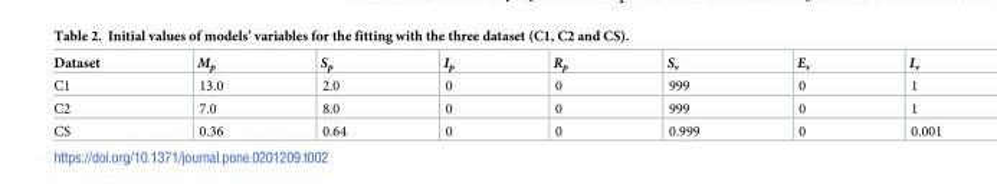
<table><thead><tr><td>Dataset</td><td>M<sub>p</sub></td><td>S<sub>p</sub></td><td>I<sub>p</sub></td><td>R<sub>p</sub></td><td>S<sub>v</sub></td><td>E<sub>v</sub></td><td>I<sub>v</sub></td></tr></thead><tbody><tr><td>C1</td><td>13.0</td><td>2.0</td><td>0</td><td>0</td><td>999</td><td>0</td><td>1</td></tr><tr><td>C2</td><td>7.0</td><td>8.0</td><td>0</td><td>0</td><td>999</td><td>0</td><td>1</td></tr><tr><td>CS</td><td>0.36</td><td>0.64</td><td>0</td><td>0</td><td>0.999</td><td>0</td><td>0.001</td></tr></tbody></table>